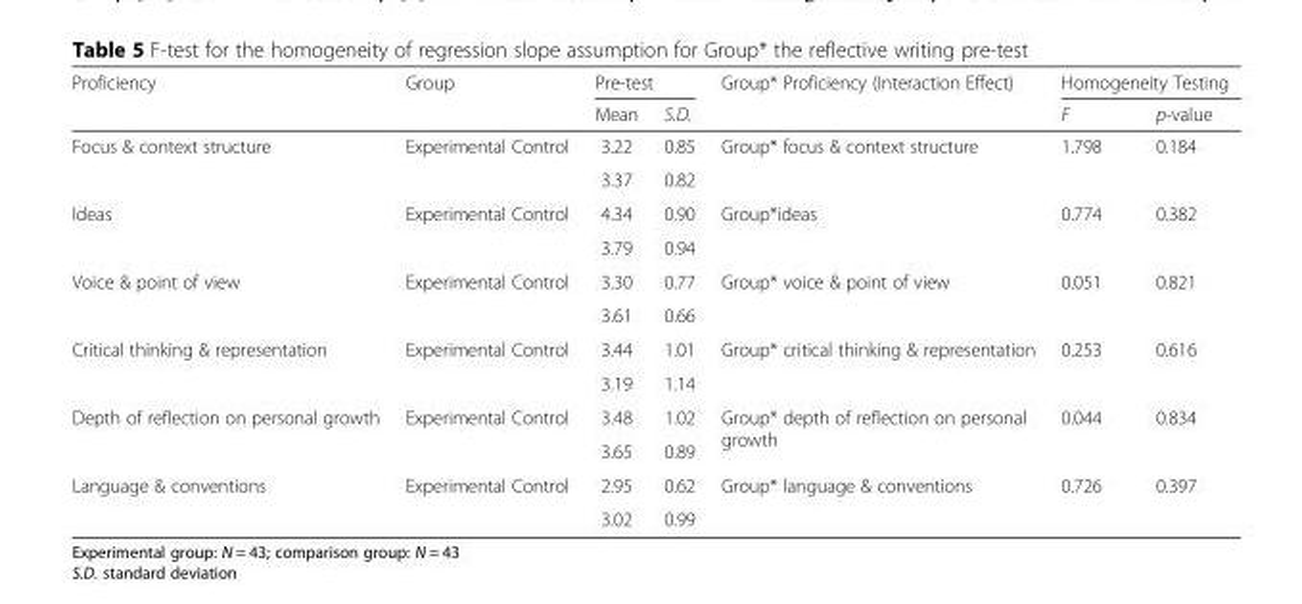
<table><thead><tr><td rowspan="2">Proficiency</td><td rowspan="2">Group</td><td colspan="2">Pre-test</td><td rowspan="2">Group* Proficiency (Interaction Effect)</td><td colspan="2">Homogeneity Testing</td></tr><tr><td>Mean</td><td>S.D.</td><td>F</td><td>p-value</td></tr></thead><tbody><tr><td rowspan="2">Focus &amp; context structure</td><td rowspan="2">Experimental Control</td><td>3.22</td><td>0.85</td><td rowspan="2">Group* focus &amp; context structure</td><td rowspan="2">1.798</td><td rowspan="2">0.184</td></tr><tr><td>3.37</td><td>0.82</td></tr><tr><td rowspan="2">Ideas</td><td rowspan="2">Experimental Control</td><td>4.34</td><td>0.90</td><td rowspan="2">Group*ideas</td><td rowspan="2">0.774</td><td rowspan="2">0.382</td></tr><tr><td>3.79</td><td>0.94</td></tr><tr><td rowspan="2">Voice &amp; point of view</td><td rowspan="2">Experimental Control</td><td>3.30</td><td>0.77</td><td rowspan="2">Group* voice &amp; point of view</td><td rowspan="2">0.051</td><td rowspan="2">0.821</td></tr><tr><td>3.61</td><td>0.66</td></tr><tr><td rowspan="2">Critical thinking &amp; representation</td><td rowspan="2">Experimental Control</td><td>3.44</td><td>1.01</td><td rowspan="2">Group* critical thinking &amp; representation</td><td rowspan="2">0.253</td><td rowspan="2">0.616</td></tr><tr><td>3.19</td><td>1.14</td></tr><tr><td rowspan="2">Depth of reflection on personal growth</td><td rowspan="2">Experimental Control</td><td>3.48</td><td>1.02</td><td rowspan="2">Group* depth of reflection on personal growth</td><td rowspan="2">0.044</td><td rowspan="2">0.834</td></tr><tr><td>3.65</td><td>0.89</td></tr><tr><td rowspan="2">Language &amp; conventions</td><td rowspan="2">Experimental Control</td><td>2.95</td><td>0.62</td><td rowspan="2">Group* language &amp; conventions</td><td rowspan="2">0.726</td><td rowspan="2">0.397</td></tr><tr><td>3.02</td><td>0.99</td></tr></tbody></table>